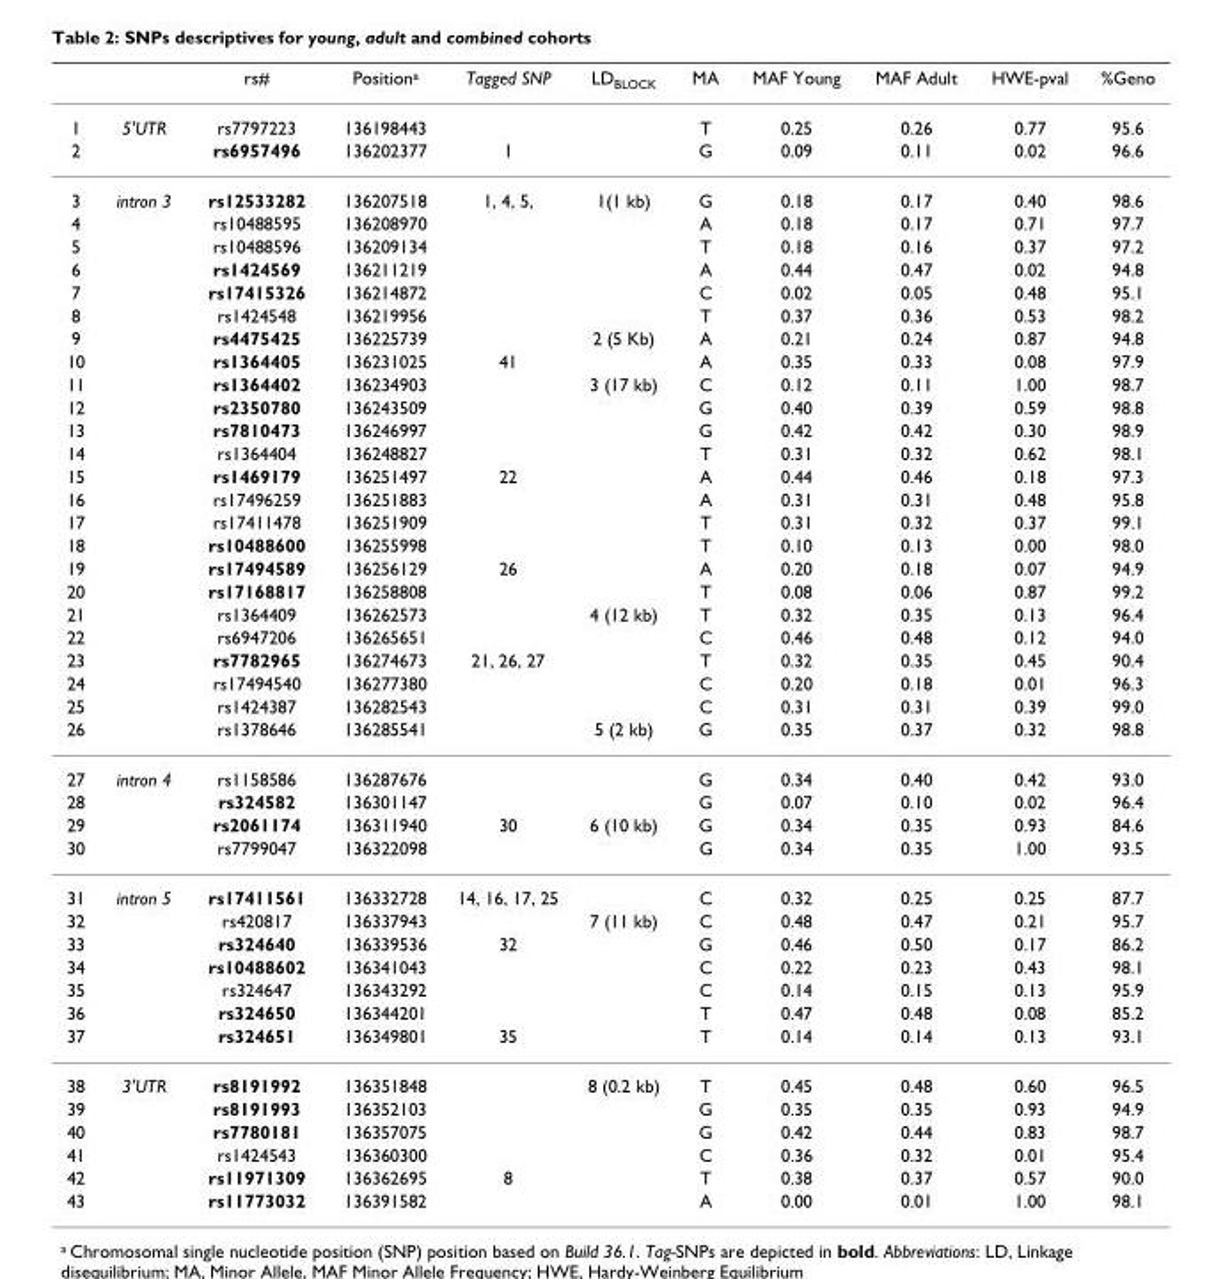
<table><thead><tr><td></td><td></td><td>rs#</td><td>Position<sup>a</sup></td><td>Tagged SNP</td><td>LD<sub>BLOCK</sub></td><td>MA</td><td>MAF Young</td><td>MAF Adult</td><td>HWE-pval</td><td>%Geno</td></tr></thead><tbody><tr><td>1</td><td>5&#x27;UTR</td><td>rs7797223</td><td>136198443</td><td></td><td></td><td>T</td><td>0.25</td><td>0.26</td><td>0.77</td><td>95.6</td></tr><tr><td>2</td><td></td><td>rs6957496</td><td>136202377</td><td>1</td><td></td><td>G</td><td>0.09</td><td>0.11</td><td>0.02</td><td>96.6</td></tr><tr><td>3</td><td>intron 3</td><td>rs12533282</td><td>136207518</td><td>1, 4, 5,</td><td>1(1 kb)</td><td>G</td><td>0.18</td><td>0.17</td><td>0.40</td><td>98.6</td></tr><tr><td>4</td><td></td><td>rs10488595</td><td>136208970</td><td></td><td></td><td>A</td><td>0.18</td><td>0.17</td><td>0.71</td><td>97.7</td></tr><tr><td>5</td><td></td><td>rs10488596</td><td>136209134</td><td></td><td></td><td>T</td><td>0.18</td><td>0.16</td><td>0.37</td><td>97.2</td></tr><tr><td>6</td><td></td><td>rs1424569</td><td>136211219</td><td></td><td></td><td>A</td><td>0.44</td><td>0.47</td><td>0.02</td><td>94.8</td></tr><tr><td>7</td><td></td><td>rs17415326</td><td>136214872</td><td></td><td></td><td>C</td><td>0.02</td><td>0.05</td><td>0.48</td><td>95.1</td></tr><tr><td>8</td><td></td><td>rs1424548</td><td>136219956</td><td></td><td></td><td>T</td><td>0.37</td><td>0.36</td><td>0.53</td><td>98.2</td></tr><tr><td>9</td><td></td><td>rs4475425</td><td>136225739</td><td></td><td>2 (5 Kb)</td><td>A</td><td>0.21</td><td>0.24</td><td>0.87</td><td>94.8</td></tr><tr><td>10</td><td></td><td>rs1364405</td><td>136231025</td><td>41</td><td></td><td>A</td><td>0.35</td><td>0.33</td><td>0.08</td><td>97.9</td></tr><tr><td>11</td><td></td><td>rs1364402</td><td>136234903</td><td></td><td>3 (17 kb)</td><td>C</td><td>0.12</td><td>0.11</td><td>1.00</td><td>98.7</td></tr><tr><td>12</td><td></td><td>rs2350780</td><td>136243509</td><td></td><td></td><td>G</td><td>0.40</td><td>0.39</td><td>0.59</td><td>98.8</td></tr><tr><td>13</td><td></td><td>rs7810473</td><td>136246997</td><td></td><td></td><td>G</td><td>0.42</td><td>0.42</td><td>0.30</td><td>98.9</td></tr><tr><td>14</td><td></td><td>rs1364404</td><td>136248827</td><td></td><td></td><td>T</td><td>0.31</td><td>0.32</td><td>0.62</td><td>98.1</td></tr><tr><td>15</td><td></td><td>rs1469179</td><td>136251497</td><td>22</td><td></td><td>A</td><td>0.44</td><td>0.46</td><td>0.18</td><td>97.3</td></tr><tr><td>16</td><td></td><td>rs17496259</td><td>136251883</td><td></td><td></td><td>A</td><td>0.31</td><td>0.31</td><td>0.48</td><td>95.8</td></tr><tr><td>17</td><td></td><td>rs17411478</td><td>136251909</td><td></td><td></td><td>T</td><td>0.31</td><td>0.32</td><td>0.37</td><td>99.1</td></tr><tr><td>18</td><td></td><td>rs10488600</td><td>136255998</td><td></td><td></td><td>T</td><td>0.10</td><td>0.13</td><td>0.00</td><td>98.0</td></tr><tr><td>19</td><td></td><td>rs17494589</td><td>136256129</td><td>26</td><td></td><td>A</td><td>0.20</td><td>0.18</td><td>0.07</td><td>94.9</td></tr><tr><td>20</td><td></td><td>rs17168817</td><td>136258808</td><td></td><td></td><td>T</td><td>0.08</td><td>0.06</td><td>0.87</td><td>99.2</td></tr><tr><td>21</td><td></td><td>rs1364409</td><td>136262573</td><td></td><td>4 (12 kb)</td><td>T</td><td>0.32</td><td>0.35</td><td>0.13</td><td>96.4</td></tr><tr><td>22</td><td></td><td>rs6947206</td><td>136265651</td><td></td><td></td><td>C</td><td>0.46</td><td>0.48</td><td>0.12</td><td>94.0</td></tr><tr><td>23</td><td></td><td>rs7782965</td><td>136274673</td><td>21, 26, 27</td><td></td><td>T</td><td>0.32</td><td>0.35</td><td>0.45</td><td>90.4</td></tr><tr><td>24</td><td></td><td>rs17494540</td><td>136277380</td><td></td><td></td><td>C</td><td>0.20</td><td>0.18</td><td>0.01</td><td>96.3</td></tr><tr><td>25</td><td></td><td>rs1424387</td><td>136282543</td><td></td><td></td><td>C</td><td>0.31</td><td>0.31</td><td>0.39</td><td>99.0</td></tr><tr><td>26</td><td></td><td>rs1378646</td><td>136285541</td><td></td><td>5 (2 kb)</td><td>G</td><td>0.35</td><td>0.37</td><td>0.32</td><td>98.8</td></tr><tr><td>27</td><td>intron 4</td><td>rs1158586</td><td>136287676</td><td></td><td></td><td>G</td><td>0.34</td><td>0.40</td><td>0.42</td><td>93.0</td></tr><tr><td>28</td><td></td><td>rs324582</td><td>136301147</td><td></td><td></td><td>G</td><td>0.07</td><td>0.10</td><td>0.02</td><td>96.4</td></tr><tr><td>29</td><td></td><td>rs2061174</td><td>136311940</td><td>30</td><td>6 (10 kb)</td><td>G</td><td>0.34</td><td>0.35</td><td>0.93</td><td>84.6</td></tr><tr><td>30</td><td></td><td>rs7799047</td><td>136322098</td><td></td><td></td><td>G</td><td>0.34</td><td>0.35</td><td>1.00</td><td>93.5</td></tr><tr><td>31</td><td>intron 5</td><td>rs17411561</td><td>136332728</td><td>14, 16, 17, 25</td><td></td><td>C</td><td>0.32</td><td>0.25</td><td>0.25</td><td>87.7</td></tr><tr><td>32</td><td></td><td>rs420817</td><td>136337943</td><td></td><td>7 (11 kb)</td><td>C</td><td>0.48</td><td>0.47</td><td>0.21</td><td>95.7</td></tr><tr><td>33</td><td></td><td>rs324640</td><td>136339536</td><td>32</td><td></td><td>G</td><td>0.46</td><td>0.50</td><td>0.17</td><td>86.2</td></tr><tr><td>34</td><td></td><td>rs10488602</td><td>136341043</td><td></td><td></td><td>C</td><td>0.22</td><td>0.23</td><td>0.43</td><td>98.1</td></tr><tr><td>35</td><td></td><td>rs324647</td><td>136343292</td><td></td><td></td><td>C</td><td>0.14</td><td>0.15</td><td>0.13</td><td>95.9</td></tr><tr><td>36</td><td></td><td>rs324650</td><td>136344201</td><td></td><td></td><td>T</td><td>0.47</td><td>0.48</td><td>0.08</td><td>85.2</td></tr><tr><td>37</td><td></td><td>rs324651</td><td>136349801</td><td>35</td><td></td><td>T</td><td>0.14</td><td>0.14</td><td>0.13</td><td>93.1</td></tr><tr><td>38</td><td>3&#x27;UTR</td><td>rs8191992</td><td>136351848</td><td></td><td>8 (0.2 kb)</td><td>T</td><td>0.45</td><td>0.48</td><td>0.60</td><td>96.5</td></tr><tr><td>39</td><td></td><td>rs8191993</td><td>136352103</td><td></td><td></td><td>G</td><td>0.35</td><td>0.35</td><td>0.93</td><td>94.9</td></tr><tr><td>40</td><td></td><td>rs7780181</td><td>136357075</td><td></td><td></td><td>G</td><td>0.42</td><td>0.44</td><td>0.83</td><td>98.7</td></tr><tr><td>41</td><td></td><td>rs1424543</td><td>136360300</td><td></td><td></td><td>C</td><td>0.36</td><td>0.32</td><td>0.01</td><td>95.4</td></tr><tr><td>42</td><td></td><td>rs11971309</td><td>136362695</td><td>8</td><td></td><td>T</td><td>0.38</td><td>0.37</td><td>0.57</td><td>90.0</td></tr><tr><td>43</td><td></td><td>rs11773032</td><td>136391582</td><td></td><td></td><td>A</td><td>0.00</td><td>0.01</td><td>1.00</td><td>98.1</td></tr></tbody></table>